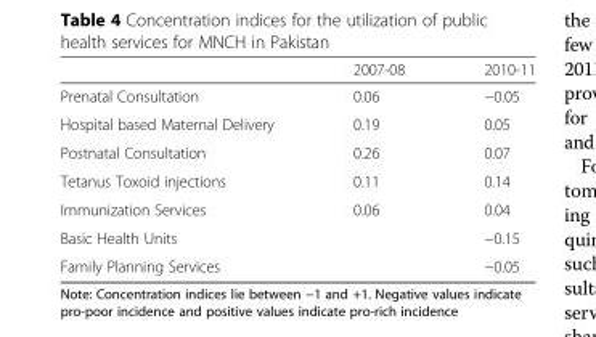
<table><thead><tr><td></td><td>2007-08</td><td>2010-11</td></tr></thead><tbody><tr><td>Prenatal Consultation</td><td>0.06</td><td>−0.05</td></tr><tr><td>Hospital based Maternal Delivery</td><td>0.19</td><td>0.05</td></tr><tr><td>Postnatal Consultation</td><td>0.26</td><td>0.07</td></tr><tr><td>Tetanus Toxoid injections</td><td>0.11</td><td>0.14</td></tr><tr><td>Immunization Services</td><td>0.06</td><td>0.04</td></tr><tr><td>Basic Health Units</td><td></td><td>−0.15</td></tr><tr><td>Family Planning Services</td><td></td><td>−0.05</td></tr></tbody></table>